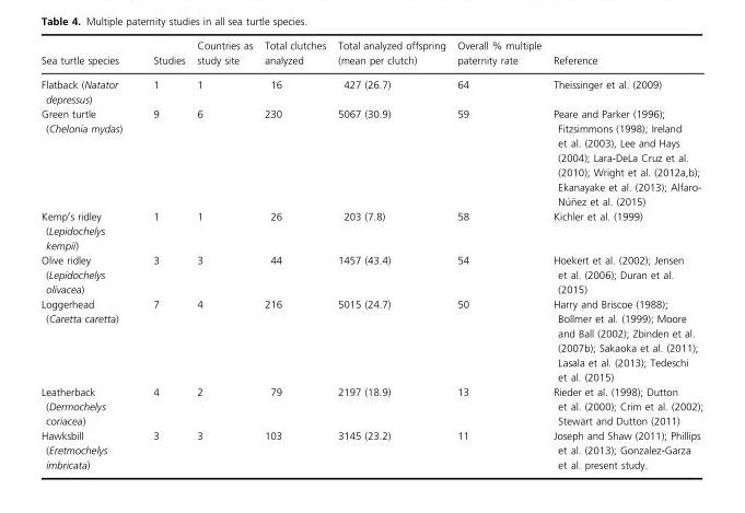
<table><thead><tr><td>Sea turtle species</td><td>Studies</td><td>Countries as study site</td><td>Total clutches analyzed</td><td>Total analyzed offspring (mean per clutch)</td><td>Overall % multiple paternity rate</td><td>Reference</td></tr></thead><tbody><tr><td>Flatback (Natator depressus)</td><td>1</td><td>1</td><td>16</td><td>427 (26.7)</td><td>64</td><td>Theissinger et al. (2009)</td></tr><tr><td>Green turtle (Chelonia mydas)</td><td>9</td><td>6</td><td>230</td><td>5067 (30.9)</td><td>59</td><td>Peare and Parker (1996); Fitzsimmons (1998); Ireland et al. (2003), Lee and Hays (2004); Lara-DeLa Cruz et al. (2010); Wright et al. (2012a,b); Ekanayake et al. (2013); Alfaro- N�u~nez et al. (2015)</td></tr><tr><td>Kemp′s ridley (Lepidochelys kempii)</td><td>1</td><td>1</td><td>26</td><td>203 (7.8)</td><td>58</td><td>Kichler et al. (1999)</td></tr><tr><td>Olive ridley (Lepidochelys olivacea)</td><td>3</td><td>3</td><td>44</td><td>1457 (43.4)</td><td>54</td><td>Hoekert et al. (2002); Jensen et al. (2006); Duran et al. (2015)</td></tr><tr><td>Loggerhead (Caretta caretta)</td><td>7</td><td>4</td><td>216</td><td>5015 (24.7)</td><td>50</td><td>Harry and Briscoe (1988); Bollmer et al. (1999); Moore and Ball (2002); Zbinden et al. (2007b); Sakaoka et al. (2011); Lasala et al. (2013); Tedeschi et al. (2015)</td></tr><tr><td>Leatherback (Dermochelys coriacea)</td><td>4</td><td>2</td><td>79</td><td>2197 (18.9)</td><td>13</td><td>Rieder et al. (1998); Dutton et al. (2000); Crim et al. (2002); Stewart and Dutton (2011)</td></tr><tr><td>Hawksbill (Eretmochelys imbricata)</td><td>3</td><td>3</td><td>103</td><td>3145 (23.2)</td><td>11</td><td>Joseph and Shaw (2011); Phillips et al. (2013); Gonzalez-Garza et al. present study.</td></tr></tbody></table>